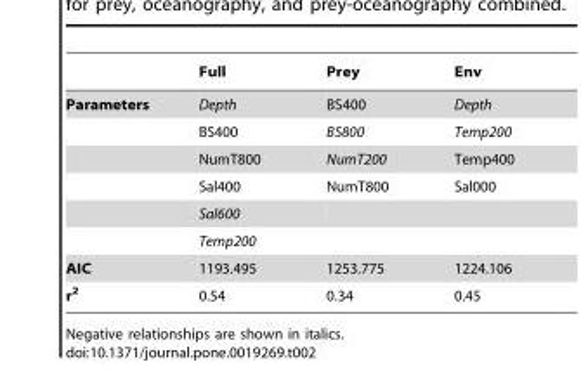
<table><thead><tr><td></td><td>Full</td><td>Prey</td><td>Env</td></tr></thead><tbody><tr><td rowspan="6">Parameters</td><td>Depth</td><td>BS400</td><td>Depth</td></tr><tr><td>BS400</td><td>BS800</td><td>Temp200</td></tr><tr><td>NumT800</td><td>NumT200</td><td>Temp400</td></tr><tr><td>Sal400</td><td>NumT800</td><td>Sal000</td></tr><tr><td>Sal600</td><td></td><td></td></tr><tr><td>Temp200</td><td></td><td></td></tr><tr><td>AIC</td><td>1193.495</td><td>1253.775</td><td>1224.106</td></tr><tr><td>r<sup>2</sup></td><td>0.54</td><td>0.34</td><td>0.45</td></tr></tbody></table>